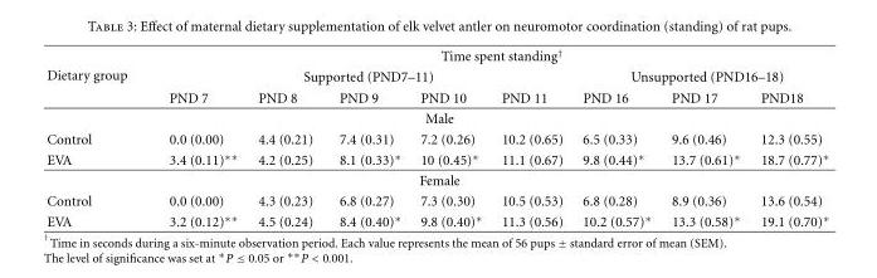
<table><thead><tr><td rowspan="3">Dietary group</td><td colspan="8">Time spent standing<sup>†</sup></td></tr><tr><td colspan="5">Supported (PND7–11)</td><td colspan="3">Unsupported (PND16–18)</td></tr><tr><td>PND 7</td><td>PND 8</td><td>PND 9</td><td>PND 10</td><td>PND 11</td><td>PND 16</td><td>PND 17</td><td>PND18</td></tr></thead><tbody><tr><td colspan="9">Male</td></tr><tr><td>Control</td><td>0.0 (0.00)</td><td>4.4 (0.21)</td><td>7.4 (0.31)</td><td>7.2 (0.26)</td><td>10.2 (0.65)</td><td>6.5 (0.33)</td><td>9.6 (0.46)</td><td>12.3 (0.55)</td></tr><tr><td>EVA</td><td>3.4 (0.11)∗∗</td><td>4.2 (0.25)</td><td>8.1 (0.33)∗</td><td>10 (0.45)∗</td><td>11.1 (0.67)</td><td>9.8 (0.44)∗</td><td>13.7 (0.61)∗</td><td>18.7 (0.77)∗</td></tr><tr><td colspan="9">Female</td></tr><tr><td>Control</td><td>0.0 (0.00)</td><td>4.3 (0.23)</td><td>6.8 (0.27)</td><td>7.3 (0.30)</td><td>10.5 (0.53)</td><td>6.8 (0.28)</td><td>8.9 (0.36)</td><td>13.6 (0.54)</td></tr><tr><td>EVA</td><td>3.2 (0.12)∗∗</td><td>4.5 (0.24)</td><td>8.4 (0.40)∗</td><td>9.8 (0.40)∗</td><td>11.3 (0.56)</td><td>10.2 (0.57)∗</td><td>13.3 (0.58)∗</td><td>19.1 (0.70)∗</td></tr></tbody></table>